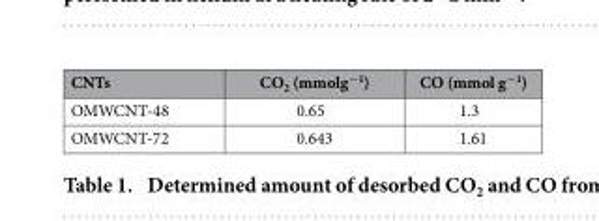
<table><thead><tr><td>CNTs</td><td>CO<sub>2</sub> (mmolg<sup>−1</sup>)</td><td>CO (mmol g<sup>−1</sup>)</td></tr></thead><tbody><tr><td>OMWCNT-48</td><td>0.65</td><td>1.3</td></tr><tr><td>OMWCNT-72</td><td>0.643</td><td>1.61</td></tr></tbody></table>